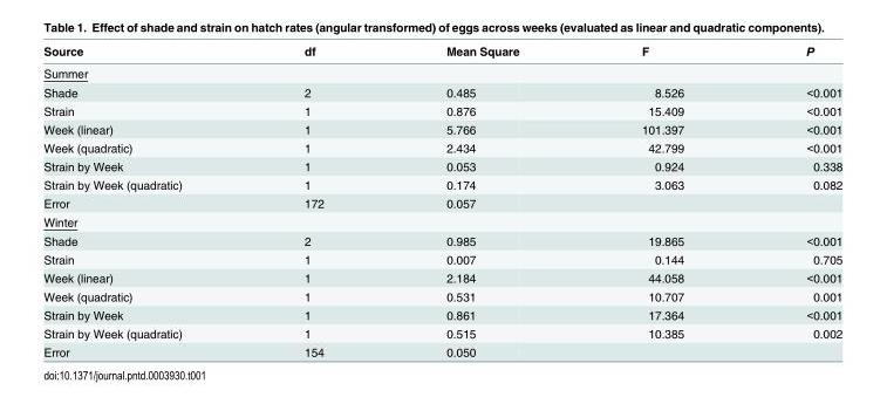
<table><thead><tr><td>Source</td><td>df</td><td>Mean Square</td><td>F</td><td>P</td></tr></thead><tbody><tr><td colspan="5">Summer</td></tr><tr><td>Shade</td><td>2</td><td>0.485</td><td>8.526</td><td>&lt;0.001</td></tr><tr><td>Strain</td><td>1</td><td>0.876</td><td>15.409</td><td>&lt;0.001</td></tr><tr><td>Week (linear)</td><td>1</td><td>5.766</td><td>101.397</td><td>&lt;0.001</td></tr><tr><td>Week (quadratic)</td><td>1</td><td>2.434</td><td>42.799</td><td>&lt;0.001</td></tr><tr><td>Strain by Week</td><td>1</td><td>0.053</td><td>0.924</td><td>0.338</td></tr><tr><td>Strain by Week (quadratic)</td><td>1</td><td>0.174</td><td>3.063</td><td>0.082</td></tr><tr><td>Error</td><td>172</td><td>0.057</td><td></td><td></td></tr><tr><td colspan="5">Winter</td></tr><tr><td>Shade</td><td>2</td><td>0.985</td><td>19.865</td><td>&lt;0.001</td></tr><tr><td>Strain</td><td>1</td><td>0.007</td><td>0.144</td><td>0.705</td></tr><tr><td>Week (linear)</td><td>1</td><td>2.184</td><td>44.058</td><td>&lt;0.001</td></tr><tr><td>Week (quadratic)</td><td>1</td><td>0.531</td><td>10.707</td><td>0.001</td></tr><tr><td>Strain by Week</td><td>1</td><td>0.861</td><td>17.364</td><td>&lt;0.001</td></tr><tr><td>Strain by Week (quadratic)</td><td>1</td><td>0.515</td><td>10.385</td><td>0.002</td></tr><tr><td>Error</td><td>154</td><td>0.050</td><td></td><td></td></tr></tbody></table>